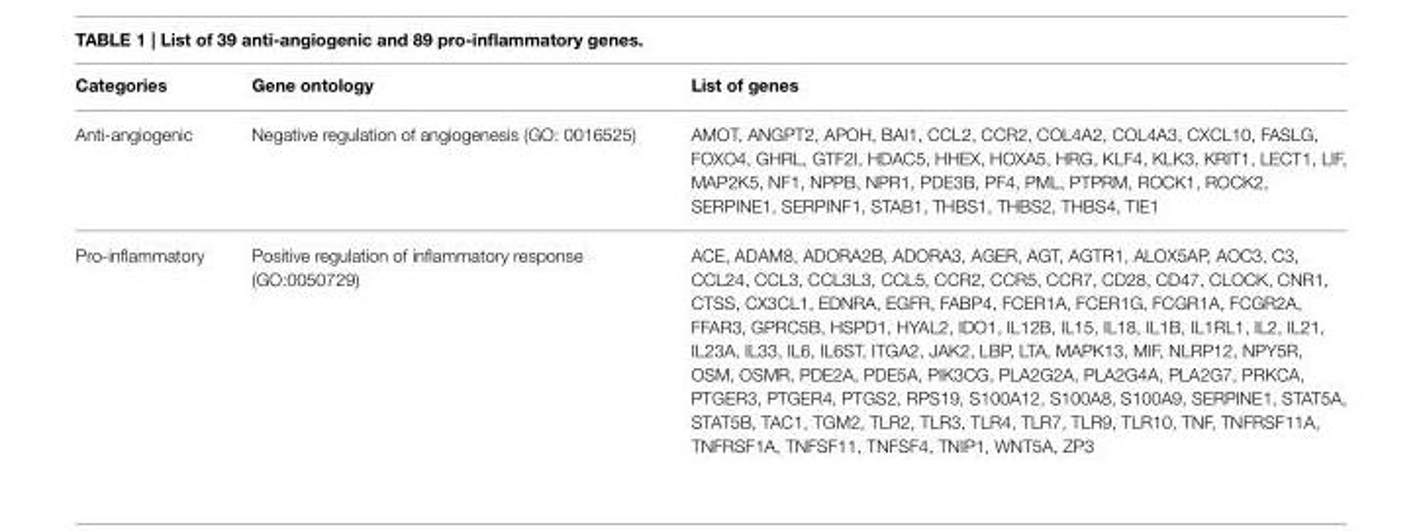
<table><thead><tr><td>Categories</td><td>Gene ontology</td><td>List of genes</td></tr></thead><tbody><tr><td>Anti-angiogenic</td><td>Negative regulation of angiogenesis (GO: 0016525)</td><td>AMOT, ANGPT2, APOH, BAI1, CCL2, CCR2, COL4A2, COL4A3, CXCL10, FASLG, FOXO4, GHRL, GTF2I, HDAC5, HHEX, HOXA5, HRG, KLF4, KLK3, KRIT1, LECT1, LIF, MAP2K5, NF1, NPPB, NPR1, PDE3B, PF4, PML, PTPRM, ROCK1, ROCK2, SERPINE1, SERPINF1, STAB1, THBS1, THBS2, THBS4, TIE1</td></tr><tr><td>Pro-inflammatory</td><td>Positive regulation of inflammatory response (GO:0050729)</td><td>ACE, ADAM8, ADORA2B, ADORA3, AGER, AGT, AGTR1, ALOX5AP, AOC3, C3, CCL24, CCL3, CCL3L3, CCL5, CCR2, CCR5, CCR7, CD28, CD47, CLOCK, CNR1, CTSS, CX3CL1, EDNRA, EGFR, FABP4, FCER1A, FCER1G, FCGR1A, FCGR2A, FFAR3, GPRC5B, HSPD1, HYAL2, IDO1, IL12B, IL15, IL18, IL1B, IL1RL1, IL2, IL21, IL23A, IL33, IL6, IL6ST, ITGA2, JAK2, LBP, LTA, MAPK13, MIF, NLRP12, NPY5R, OSM, OSMR, PDE2A, PDE5A, PIK3CG, PLA2G2A, PLA2G4A, PLA2G7, PRKCA, PTGER3, PTGER4, PTGS2, RPS19, S100A12, S100A8, S100A9, SERPINE1, STAT5A, STAT5B, TAC1, TGM2, TLR2, TLR3, TLR4, TLR7, TLR9, TLR10, TNF, TNFRSF11A, TNFRSF1A, TNFSF11, TNFSF4, TNIP1, WNT5A, ZP3</td></tr></tbody></table>